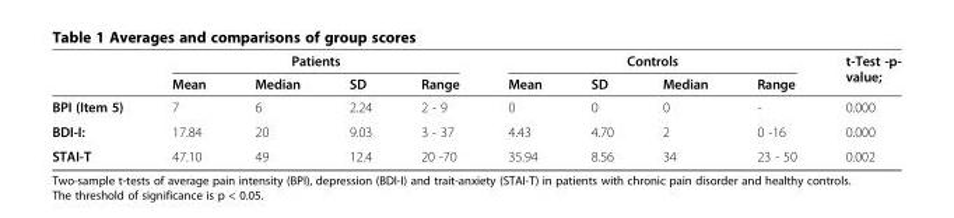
<table><thead><tr><td rowspan="2"></td><td colspan="4">Patients</td><td colspan="4">Controls</td><td rowspan="2">t-Test -p- value;</td></tr><tr><td>Mean</td><td>Median</td><td>SD</td><td>Range</td><td>Mean</td><td>SD</td><td>Median</td><td>Range</td></tr></thead><tbody><tr><td>BPI (Item 5)</td><td>7</td><td>6</td><td>2.24</td><td>2 - 9</td><td>0</td><td>0</td><td>0</td><td>-</td><td>0.000</td></tr><tr><td>BDI-I:</td><td>17.84</td><td>20</td><td>9.03</td><td>3 - 37</td><td>4.43</td><td>4.70</td><td>2</td><td>0 -16</td><td>0.000</td></tr><tr><td>STAI-T</td><td>47.10</td><td>49</td><td>12.4</td><td>20 -70</td><td>35.94</td><td>8.56</td><td>34</td><td>23 - 50</td><td>0.002</td></tr></tbody></table>